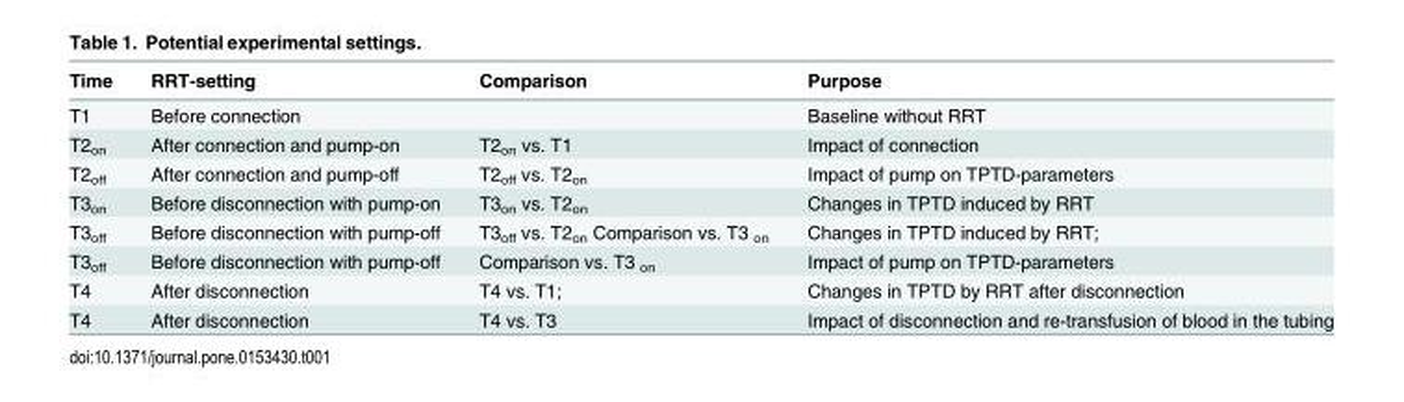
<table><thead><tr><td>Time</td><td>RRT-setting</td><td>Comparison</td><td>Purpose</td></tr></thead><tbody><tr><td>T1</td><td>Before connection</td><td></td><td>Baseline without RRT</td></tr><tr><td>T2<sub>on</sub></td><td>After connection and pump-on</td><td>T2<sub>on</sub> vs. T1</td><td>Impact of connection</td></tr><tr><td>T2<sub>off</sub></td><td>After connection and pump-off</td><td>T2<sub>off</sub> vs. T2<sub>on</sub></td><td>Impact of pump on TPTD-parameters</td></tr><tr><td>T3<sub>on</sub></td><td>Before disconnection with pump-on</td><td>T3<sub>on</sub> vs. T2<sub>on</sub></td><td>Changes in TPTD induced by RRT</td></tr><tr><td>T3<sub>off</sub></td><td>Before disconnection with pump-off</td><td>T3<sub>off</sub> vs. T2<sub>on</sub> Comparison vs. T3 <sub>on</sub></td><td>Changes in TPTD induced by RRT;</td></tr><tr><td>T3<sub>off</sub></td><td>Before disconnection with pump-off</td><td>Comparison vs. T3 <sub>on</sub></td><td>Impact of pump on TPTD-parameters</td></tr><tr><td>T4</td><td>After disconnection</td><td>T4 vs. T1;</td><td>Changes in TPTD by RRT after disconnection</td></tr><tr><td>T4</td><td>After disconnection</td><td>T4 vs. T3</td><td>Impact of disconnection and re-transfusion of blood in the tubing</td></tr></tbody></table>